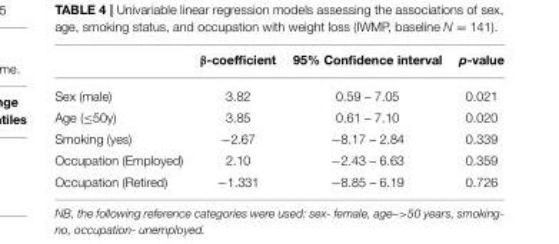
<table><thead><tr><td></td><td>β-coefficient</td><td>95% Confidence interval</td><td>p-value</td></tr></thead><tbody><tr><td>Sex (male)</td><td>3.82</td><td>0.59 – 7.05</td><td>0.021</td></tr><tr><td>Age (≤50y)</td><td>3.85</td><td>0.61 – 7.10</td><td>0.020</td></tr><tr><td>Smoking (yes)</td><td>−2.67</td><td>−8.17 – 2.84</td><td>0.339</td></tr><tr><td>Occupation (Employed)</td><td>2.10</td><td>−2.43 – 6.63</td><td>0.359</td></tr><tr><td>Occupation (Retired)</td><td>−1.331</td><td>−8.85 – 6.19</td><td>0.726</td></tr></tbody></table>